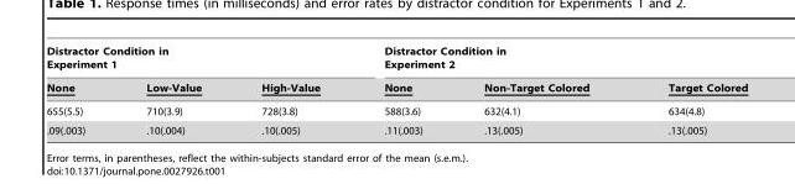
<table><thead><tr><td colspan="3">Distractor Condition in Experiment 1</td><td colspan="3">Distractor Condition in Experiment 2</td></tr><tr><td>None</td><td>Low-Value</td><td>High-Value</td><td>None</td><td>Non-Target Colored</td><td>Target Colored</td></tr></thead><tbody><tr><td>655(5.5)</td><td>710(3.9)</td><td>728(3.8)</td><td>588(3.6)</td><td>632(4.1)</td><td>634(4.8)</td></tr><tr><td>.09(.003)</td><td>.10(.004)</td><td>.10(.005)</td><td>.11(.003)</td><td>.13(.005)</td><td>.13(.005)</td></tr></tbody></table>